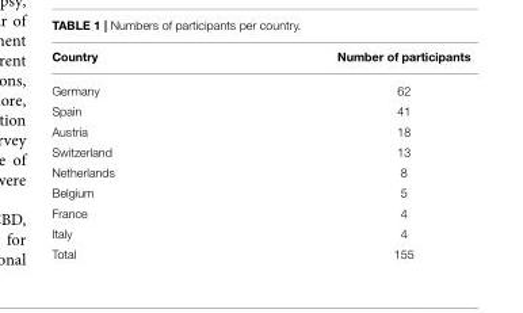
<table><thead><tr><td>Country</td><td>Number of participants</td></tr></thead><tbody><tr><td>Germany</td><td>62</td></tr><tr><td>Spain</td><td>41</td></tr><tr><td>Austria</td><td>18</td></tr><tr><td>Switzerland</td><td>13</td></tr><tr><td>Netherlands</td><td>8</td></tr><tr><td>Belgium</td><td>5</td></tr><tr><td>France</td><td>4</td></tr><tr><td>Italy</td><td>4</td></tr><tr><td>Total</td><td>155</td></tr></tbody></table>